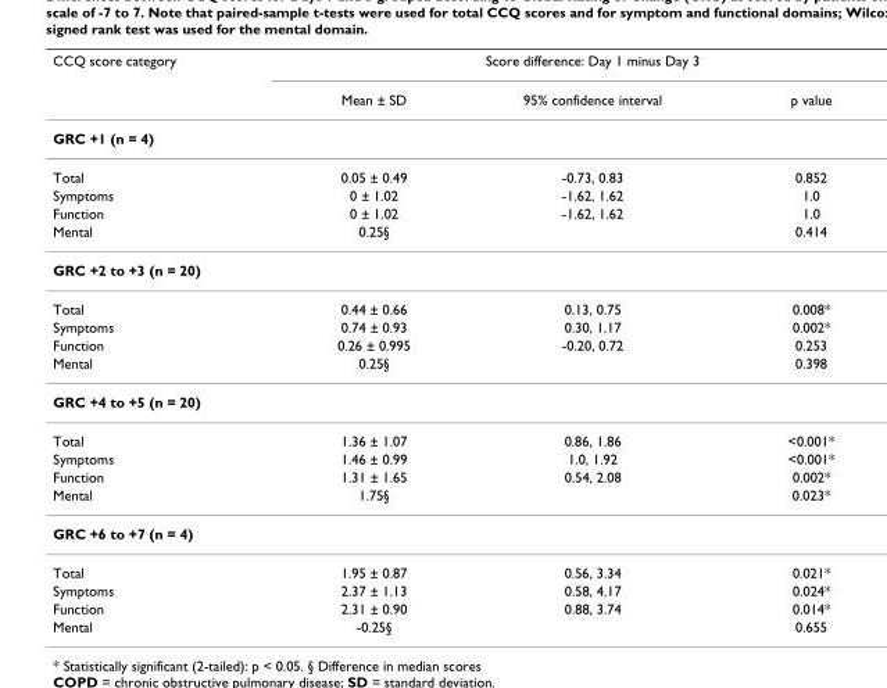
<table><thead><tr><td rowspan="2">CCQ score category</td><td colspan="3">Score difference: Day 1 minus Day 3</td></tr><tr><td>Mean ± SD</td><td>95% confidence interval</td><td>p value</td></tr></thead><tbody><tr><td colspan="4">GRC +1 (n = 4)</td></tr><tr><td>Total</td><td>0.05 ± 0.49</td><td>-0.73, 0.83</td><td>0.852</td></tr><tr><td>Symptoms</td><td>0 ± 1.02</td><td>-1.62, 1.62</td><td>1.0</td></tr><tr><td>Function</td><td>0 ± 1.02</td><td>-1.62, 1.62</td><td>1.0</td></tr><tr><td>Mental</td><td>0.25§</td><td></td><td>0.414</td></tr><tr><td colspan="4">GRC +2 to +3 (n = 20)</td></tr><tr><td>Total</td><td>0.44 ± 0.66</td><td>0.13, 0.75</td><td>0.008*</td></tr><tr><td>Symptoms</td><td>0.74 ± 0.93</td><td>0.30, 1.17</td><td>0.002*</td></tr><tr><td>Function</td><td>0.26 ± 0.995</td><td>-0.20, 0.72</td><td>0.253</td></tr><tr><td>Mental</td><td>0.25§</td><td></td><td>0.398</td></tr><tr><td colspan="4">GRC +4 to +5 (n = 20)</td></tr><tr><td>Total</td><td>1.36 ± 1.07</td><td>0.86, 1.86</td><td>&lt;0.001*</td></tr><tr><td>Symptoms</td><td>1.46 ± 0.99</td><td>1.0, 1.92</td><td>&lt;0.001*</td></tr><tr><td>Function</td><td>1.31 ± 1.65</td><td>0.54, 2.08</td><td>0.002*</td></tr><tr><td>Mental</td><td>1.75§</td><td></td><td>0.023*</td></tr><tr><td colspan="4">GRC +6 to +7 (n = 4)</td></tr><tr><td>Total</td><td>1.95 ± 0.87</td><td>0.56, 3.34</td><td>0.021*</td></tr><tr><td>Symptoms</td><td>2.37 ± 1.13</td><td>0.58, 4.17</td><td>0.024*</td></tr><tr><td>Function</td><td>2.31 ± 0.90</td><td>0.88, 3.74</td><td>0.014*</td></tr><tr><td>Mental</td><td>-0.25§</td><td></td><td>0.655</td></tr></tbody></table>